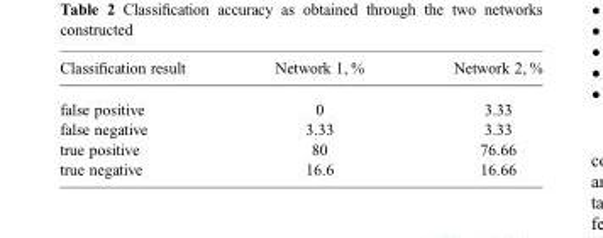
<table><thead><tr><td>Classification result</td><td>Network 1, %</td><td>Network 2, %</td></tr></thead><tbody><tr><td>false positive</td><td>0</td><td>3.33</td></tr><tr><td>false negative</td><td>3.33</td><td>3.33</td></tr><tr><td>true positive</td><td>80</td><td>76.66</td></tr><tr><td>true negative</td><td>16.6</td><td>16.66</td></tr></tbody></table>